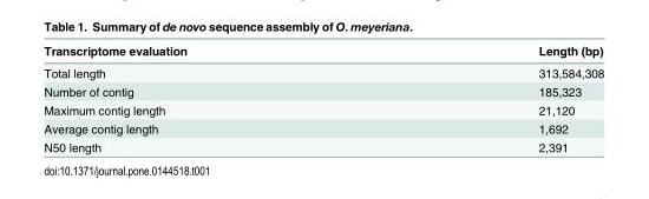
<table><thead><tr><td>Transcriptome evaluation</td><td>Length (bp)</td></tr></thead><tbody><tr><td>Total length</td><td>313,584,308</td></tr><tr><td>Number of contig</td><td>185,323</td></tr><tr><td>Maximum contig length</td><td>21,120</td></tr><tr><td>Average contig length</td><td>1,692</td></tr><tr><td>N50 length</td><td>2,391</td></tr></tbody></table>